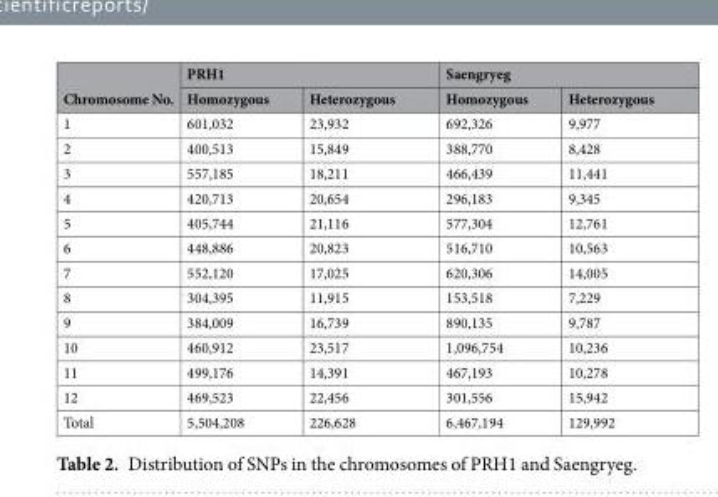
<table><thead><tr><td rowspan="2">Chromosome No.</td><td colspan="2">PRH1</td><td colspan="2">Saengryeg</td></tr><tr><td>Homozygous</td><td>Heterozygous</td><td>Homozygous</td><td>Heterozygous</td></tr></thead><tbody><tr><td>1</td><td>601,032</td><td>23,932</td><td>692,326</td><td>9,977</td></tr><tr><td>2</td><td>400,513</td><td>15,849</td><td>388,770</td><td>8,428</td></tr><tr><td>3</td><td>557,185</td><td>18,211</td><td>466,439</td><td>11,441</td></tr><tr><td>4</td><td>420,713</td><td>20,654</td><td>296,183</td><td>9,345</td></tr><tr><td>5</td><td>405,744</td><td>21,116</td><td>577,304</td><td>12,761</td></tr><tr><td>6</td><td>448,886</td><td>20,823</td><td>516,710</td><td>10,563</td></tr><tr><td>7</td><td>552,120</td><td>17,025</td><td>620,306</td><td>14,005</td></tr><tr><td>8</td><td>304,395</td><td>11,915</td><td>153,518</td><td>7,229</td></tr><tr><td>9</td><td>384,009</td><td>16,739</td><td>890,135</td><td>9,787</td></tr><tr><td>10</td><td>460,912</td><td>23,517</td><td>1,096,754</td><td>10,236</td></tr><tr><td>11</td><td>499,176</td><td>14,391</td><td>467,193</td><td>10,278</td></tr><tr><td>12</td><td>469,523</td><td>22,456</td><td>301,556</td><td>15,942</td></tr><tr><td>Total</td><td>5,504,208</td><td>226,628</td><td>6,467,194</td><td>129,992</td></tr></tbody></table>